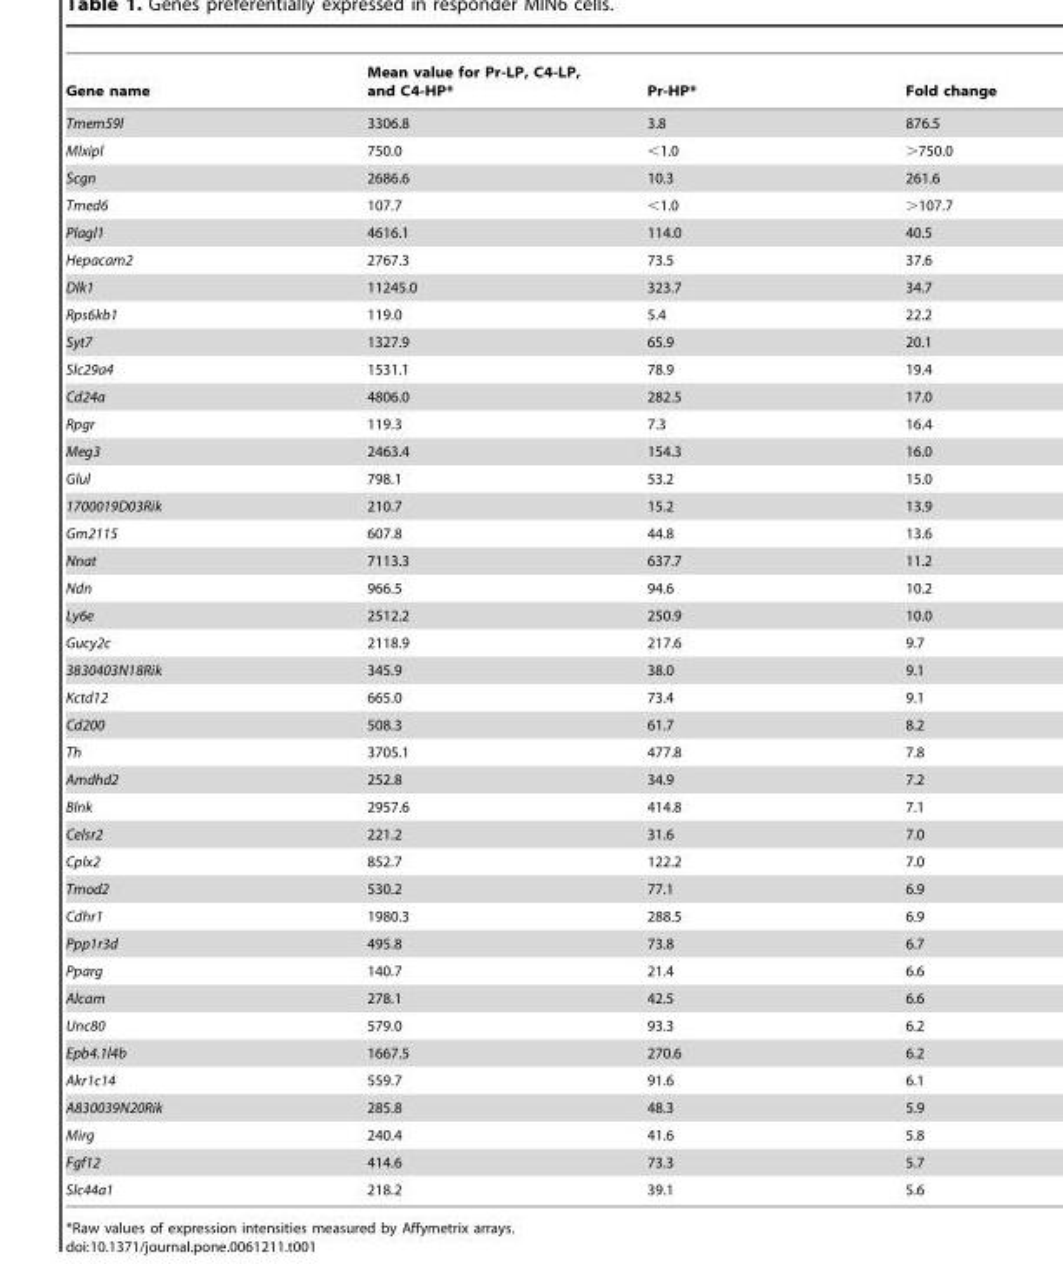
<table><thead><tr><td>Gene name</td><td>Mean value for Pr-LP, C4-LP, and C4-HP*</td><td>Pr-HP*</td><td>Fold change</td></tr></thead><tbody><tr><td>Tmem59l</td><td>3306.8</td><td>3.8</td><td>876.5</td></tr><tr><td>Mlxipl</td><td>750.0</td><td>&lt;1.0</td><td>&gt;750.0</td></tr><tr><td>Scgn</td><td>2686.6</td><td>10.3</td><td>261.6</td></tr><tr><td>Tmed6</td><td>107.7</td><td>&lt;1.0</td><td>&gt;107.7</td></tr><tr><td>Plagl1</td><td>4616.1</td><td>114.0</td><td>40.5</td></tr><tr><td>Hepacam2</td><td>2767.3</td><td>73.5</td><td>37.6</td></tr><tr><td>Dlk1</td><td>11245.0</td><td>323.7</td><td>34.7</td></tr><tr><td>Rps6kb1</td><td>119.0</td><td>5.4</td><td>22.2</td></tr><tr><td>Syt7</td><td>1327.9</td><td>65.9</td><td>20.1</td></tr><tr><td>Slc29a4</td><td>1531.1</td><td>78.9</td><td>19.4</td></tr><tr><td>Cd24a</td><td>4806.0</td><td>282.5</td><td>17.0</td></tr><tr><td>Rpgr</td><td>119.3</td><td>7.3</td><td>16.4</td></tr><tr><td>Meg3</td><td>2463.4</td><td>154.3</td><td>16.0</td></tr><tr><td>Glul</td><td>798.1</td><td>53.2</td><td>15.0</td></tr><tr><td>1700019D03Rik</td><td>210.7</td><td>15.2</td><td>13.9</td></tr><tr><td>Gm2115</td><td>607.8</td><td>44.8</td><td>13.6</td></tr><tr><td>Nnat</td><td>7113.3</td><td>637.7</td><td>11.2</td></tr><tr><td>Ndn</td><td>966.5</td><td>94.6</td><td>10.2</td></tr><tr><td>Ly6e</td><td>2512.2</td><td>250.9</td><td>10.0</td></tr><tr><td>Gucy2c</td><td>2118.9</td><td>217.6</td><td>9.7</td></tr><tr><td>3830403N18Rik</td><td>345.9</td><td>38.0</td><td>9.1</td></tr><tr><td>Kctd12</td><td>665.0</td><td>73.4</td><td>9.1</td></tr><tr><td>Cd200</td><td>508.3</td><td>61.7</td><td>8.2</td></tr><tr><td>Th</td><td>3705.1</td><td>477.8</td><td>7.8</td></tr><tr><td>Amdhd2</td><td>252.8</td><td>34.9</td><td>7.2</td></tr><tr><td>Blnk</td><td>2957.6</td><td>414.8</td><td>7.1</td></tr><tr><td>Celsr2</td><td>221.2</td><td>31.6</td><td>7.0</td></tr><tr><td>Cplx2</td><td>852.7</td><td>122.2</td><td>7.0</td></tr><tr><td>Tmod2</td><td>530.2</td><td>77.1</td><td>6.9</td></tr><tr><td>Cdhr1</td><td>1980.3</td><td>288.5</td><td>6.9</td></tr><tr><td>Ppp1r3d</td><td>495.8</td><td>73.8</td><td>6.7</td></tr><tr><td>Pparg</td><td>140.7</td><td>21.4</td><td>6.6</td></tr><tr><td>Alcam</td><td>278.1</td><td>42.5</td><td>6.6</td></tr><tr><td>Unc80</td><td>579.0</td><td>93.3</td><td>6.2</td></tr><tr><td>Epb4.1l4b</td><td>1667.5</td><td>270.6</td><td>6.2</td></tr><tr><td>Akr1c14</td><td>559.7</td><td>91.6</td><td>6.1</td></tr><tr><td>A830039N20Rik</td><td>285.8</td><td>48.3</td><td>5.9</td></tr><tr><td>Mirg</td><td>240.4</td><td>41.6</td><td>5.8</td></tr><tr><td>Fgf12</td><td>414.6</td><td>73.3</td><td>5.7</td></tr><tr><td>Slc44a1</td><td>218.2</td><td>39.1</td><td>5.6</td></tr></tbody></table>